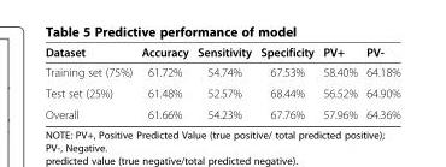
<table><thead><tr><td>Dataset</td><td>Accuracy</td><td>Sensitivity</td><td>Specificity</td><td>PV+</td><td>PV-</td></tr></thead><tbody><tr><td>Training set (75%)</td><td>61.72%</td><td>54.74%</td><td>67.53%</td><td>58.40%</td><td>64.18%</td></tr><tr><td>Test set (25%)</td><td>61.48%</td><td>52.57%</td><td>68.44%</td><td>56.52%</td><td>64.90%</td></tr><tr><td>Overall</td><td>61.66%</td><td>54.23%</td><td>67.76%</td><td>57.96%</td><td>64.36%</td></tr></tbody></table>